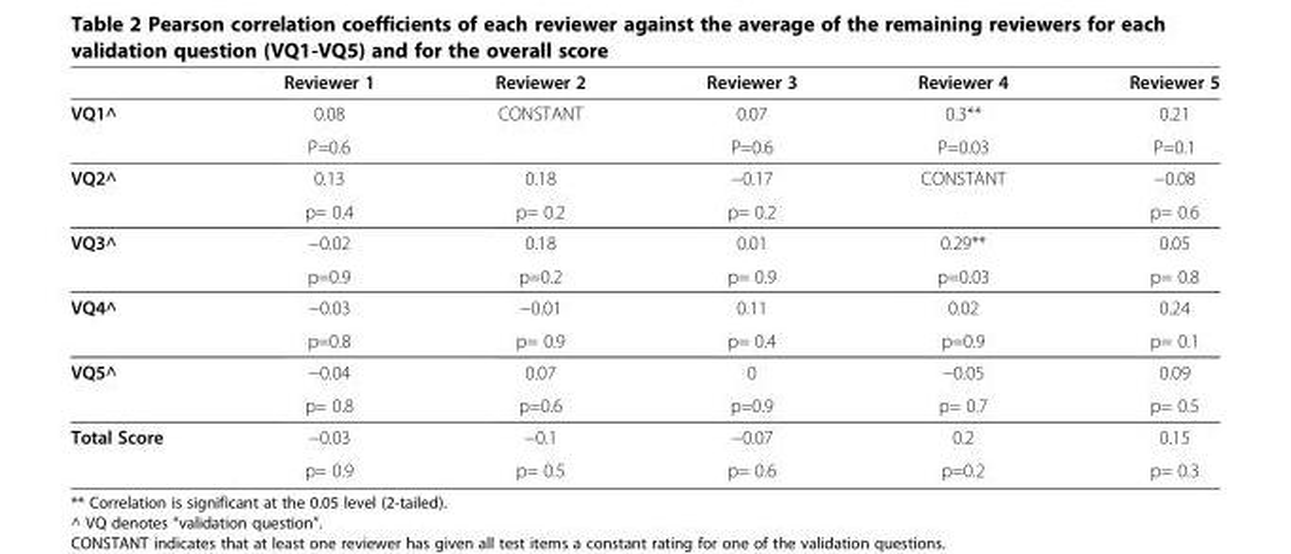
<table><thead><tr><td></td><td>Reviewer 1</td><td>Reviewer 2</td><td>Reviewer 3</td><td>Reviewer 4</td><td>Reviewer 5</td></tr></thead><tbody><tr><td rowspan="2">VQ1^</td><td>0.08</td><td>CONSTANT</td><td>0.07</td><td>0.3**</td><td>0.21</td></tr><tr><td>P=0.6</td><td></td><td>P=0.6</td><td>P=0.03</td><td>P=0.1</td></tr><tr><td rowspan="2">VQ2^</td><td>0.13</td><td>0.18</td><td>−0.17</td><td>CONSTANT</td><td>−0.08</td></tr><tr><td>p= 0.4</td><td>p= 0.2</td><td>p= 0.2</td><td></td><td>p= 0.6</td></tr><tr><td rowspan="2">VQ3^</td><td>−0.02</td><td>0.18</td><td>0.01</td><td>0.29**</td><td>0.05</td></tr><tr><td>p=0.9</td><td>p=0.2</td><td>p= 0.9</td><td>p=0.03</td><td>p= 0.8</td></tr><tr><td rowspan="2">VQ4^</td><td>−0.03</td><td>−0.01</td><td>0.11</td><td>0.02</td><td>0.24</td></tr><tr><td>p=0.8</td><td>p= 0.9</td><td>p= 0.4</td><td>p=0.9</td><td>p= 0.1</td></tr><tr><td rowspan="2">VQ5^</td><td>−0.04</td><td>0.07</td><td>0</td><td>−0.05</td><td>0.09</td></tr><tr><td>p= 0.8</td><td>p=0.6</td><td>p=0.9</td><td>p= 0.7</td><td>p= 0.5</td></tr><tr><td rowspan="2">Total Score</td><td>−0.03</td><td>−0.1</td><td>−0.07</td><td>0.2</td><td>0.15</td></tr><tr><td>p= 0.9</td><td>p= 0.5</td><td>p= 0.6</td><td>p=0.2</td><td>p= 0.3</td></tr></tbody></table>